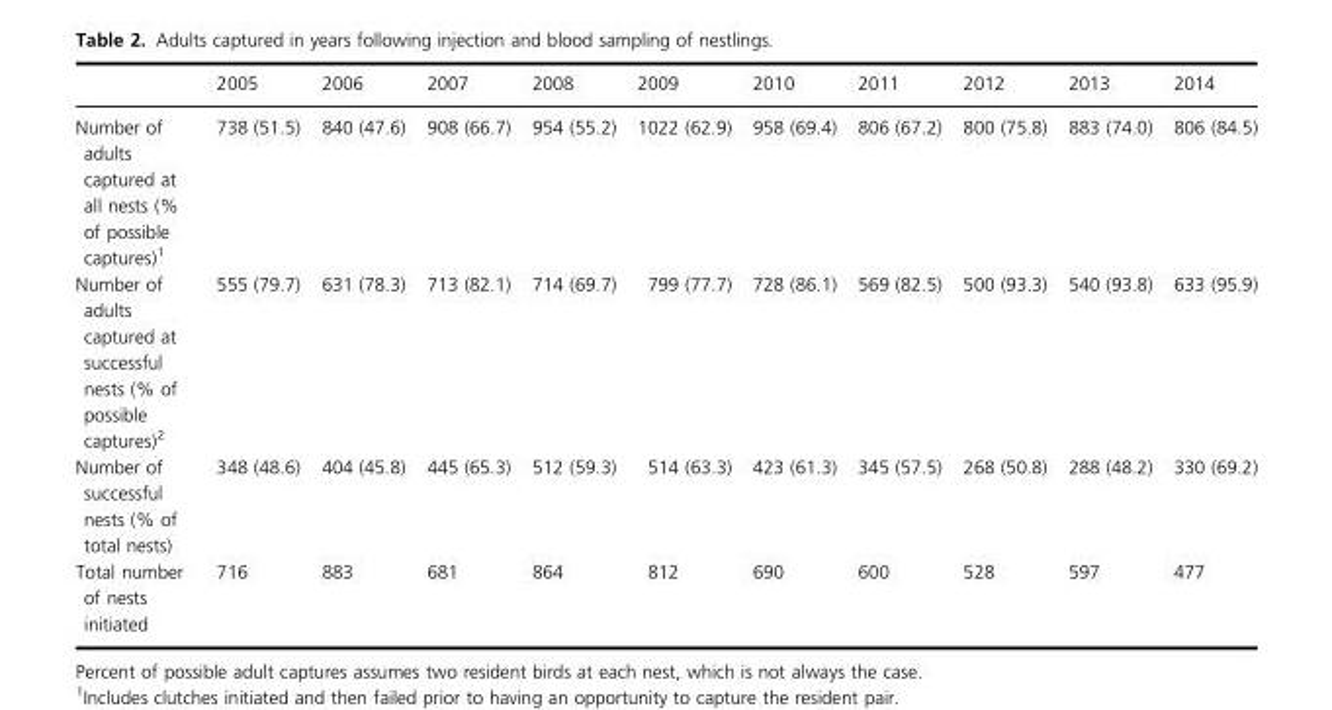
<table><thead><tr><td></td><td>2005</td><td>2006</td><td>2007</td><td>2008</td><td>2009</td><td>2010</td><td>2011</td><td>2012</td><td>2013</td><td>2014</td></tr></thead><tbody><tr><td>Number of adults captured at all nests (% of possible captures)1</td><td>738 (51.5)</td><td>840 (47.6)</td><td>908 (66.7)</td><td>954 (55.2)</td><td>1022 (62.9)</td><td>958 (69.4)</td><td>806 (67.2)</td><td>800 (75.8)</td><td>883 (74.0)</td><td>806 (84.5)</td></tr><tr><td>Number of adults captured at successful nests (% of possible captures)2</td><td>555 (79.7)</td><td>631 (78.3)</td><td>713 (82.1)</td><td>714 (69.7)</td><td>799 (77.7)</td><td>728 (86.1)</td><td>569 (82.5)</td><td>500 (93.3)</td><td>540 (93.8)</td><td>633 (95.9)</td></tr><tr><td>Number of successful nests (% of total nests)</td><td>348 (48.6)</td><td>404 (45.8)</td><td>445 (65.3)</td><td>512 (59.3)</td><td>514 (63.3)</td><td>423 (61.3)</td><td>345 (57.5)</td><td>268 (50.8)</td><td>288 (48.2)</td><td>330 (69.2)</td></tr><tr><td>Total number of nests initiated</td><td>716</td><td>883</td><td>681</td><td>864</td><td>812</td><td>690</td><td>600</td><td>528</td><td>597</td><td>477</td></tr></tbody></table>